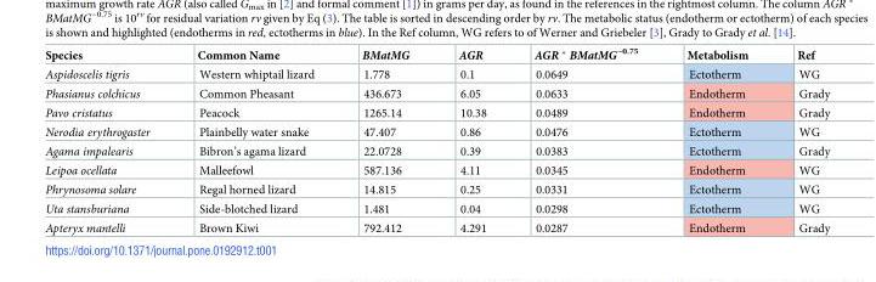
<table><thead><tr><td>Species</td><td>Common Name</td><td>BMatMG</td><td>AGR</td><td>AGR * BMatMG<sup>−0.75</sup></td><td>Metabolism</td><td>Ref</td></tr></thead><tbody><tr><td>Aspidoscelis tigris</td><td>Western whiptail lizard</td><td>1.778</td><td>0.1</td><td>0.0649</td><td>Ectotherm</td><td>WG</td></tr><tr><td>Phasianus colchicus</td><td>Common Pheasant</td><td>436.673</td><td>6.05</td><td>0.0633</td><td>Endotherm</td><td>Grady</td></tr><tr><td>Pavo cristatus</td><td>Peacock</td><td>1265.14</td><td>10.38</td><td>0.0489</td><td>Endotherm</td><td>Grady</td></tr><tr><td>Nerodia erythrogaster</td><td>Plainbelly water snake</td><td>47.407</td><td>0.86</td><td>0.0476</td><td>Ectotherm</td><td>WG</td></tr><tr><td>Agama impalearis</td><td>Bibron’s agama lizard</td><td>22.0728</td><td>0.39</td><td>0.0383</td><td>Ectotherm</td><td>Grady</td></tr><tr><td>Leipoa ocellata</td><td>Malleefowl</td><td>587.136</td><td>4.11</td><td>0.0345</td><td>Endotherm</td><td>WG</td></tr><tr><td>Phrynosoma solare</td><td>Regal horned lizard</td><td>14.815</td><td>0.25</td><td>0.0331</td><td>Ectotherm</td><td>WG</td></tr><tr><td>Uta stansburiana</td><td>Side-blotched lizard</td><td>1.481</td><td>0.04</td><td>0.0298</td><td>Ectotherm</td><td>WG</td></tr><tr><td>Apteryx mantelli</td><td>Brown Kiwi</td><td>792.412</td><td>4.291</td><td>0.0287</td><td>Endotherm</td><td>Grady</td></tr></tbody></table>